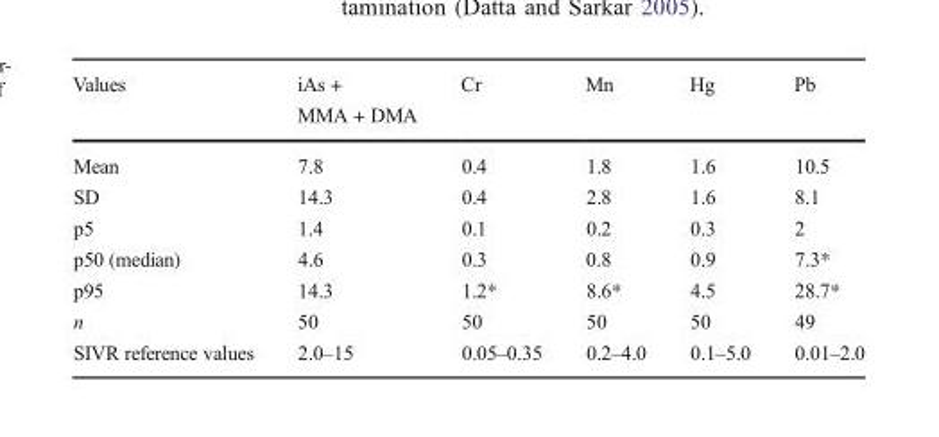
<table><thead><tr><td>Values</td><td>iAs + MMA + DMA</td><td>Cr</td><td>Mn</td><td>Hg</td><td>Pb</td></tr></thead><tbody><tr><td>Mean</td><td>7.8</td><td>0.4</td><td>1.8</td><td>1.6</td><td>10.5</td></tr><tr><td>SD</td><td>14.3</td><td>0.4</td><td>2.8</td><td>1.6</td><td>8.1</td></tr><tr><td>p5</td><td>1.4</td><td>0.1</td><td>0.2</td><td>0.3</td><td>2</td></tr><tr><td>p50 (median)</td><td>4.6</td><td>0.3</td><td>0.8</td><td>0.9</td><td>7.3*</td></tr><tr><td>p95</td><td>14.3</td><td>1.2*</td><td>8.6*</td><td>4.5</td><td>28.7*</td></tr><tr><td>n</td><td>50</td><td>50</td><td>50</td><td>50</td><td>49</td></tr><tr><td>SIVR reference values</td><td>2.0–15</td><td>0.05–0.35</td><td>0.2–4.0</td><td>0.1–5.0</td><td>0.01–2.0</td></tr></tbody></table>